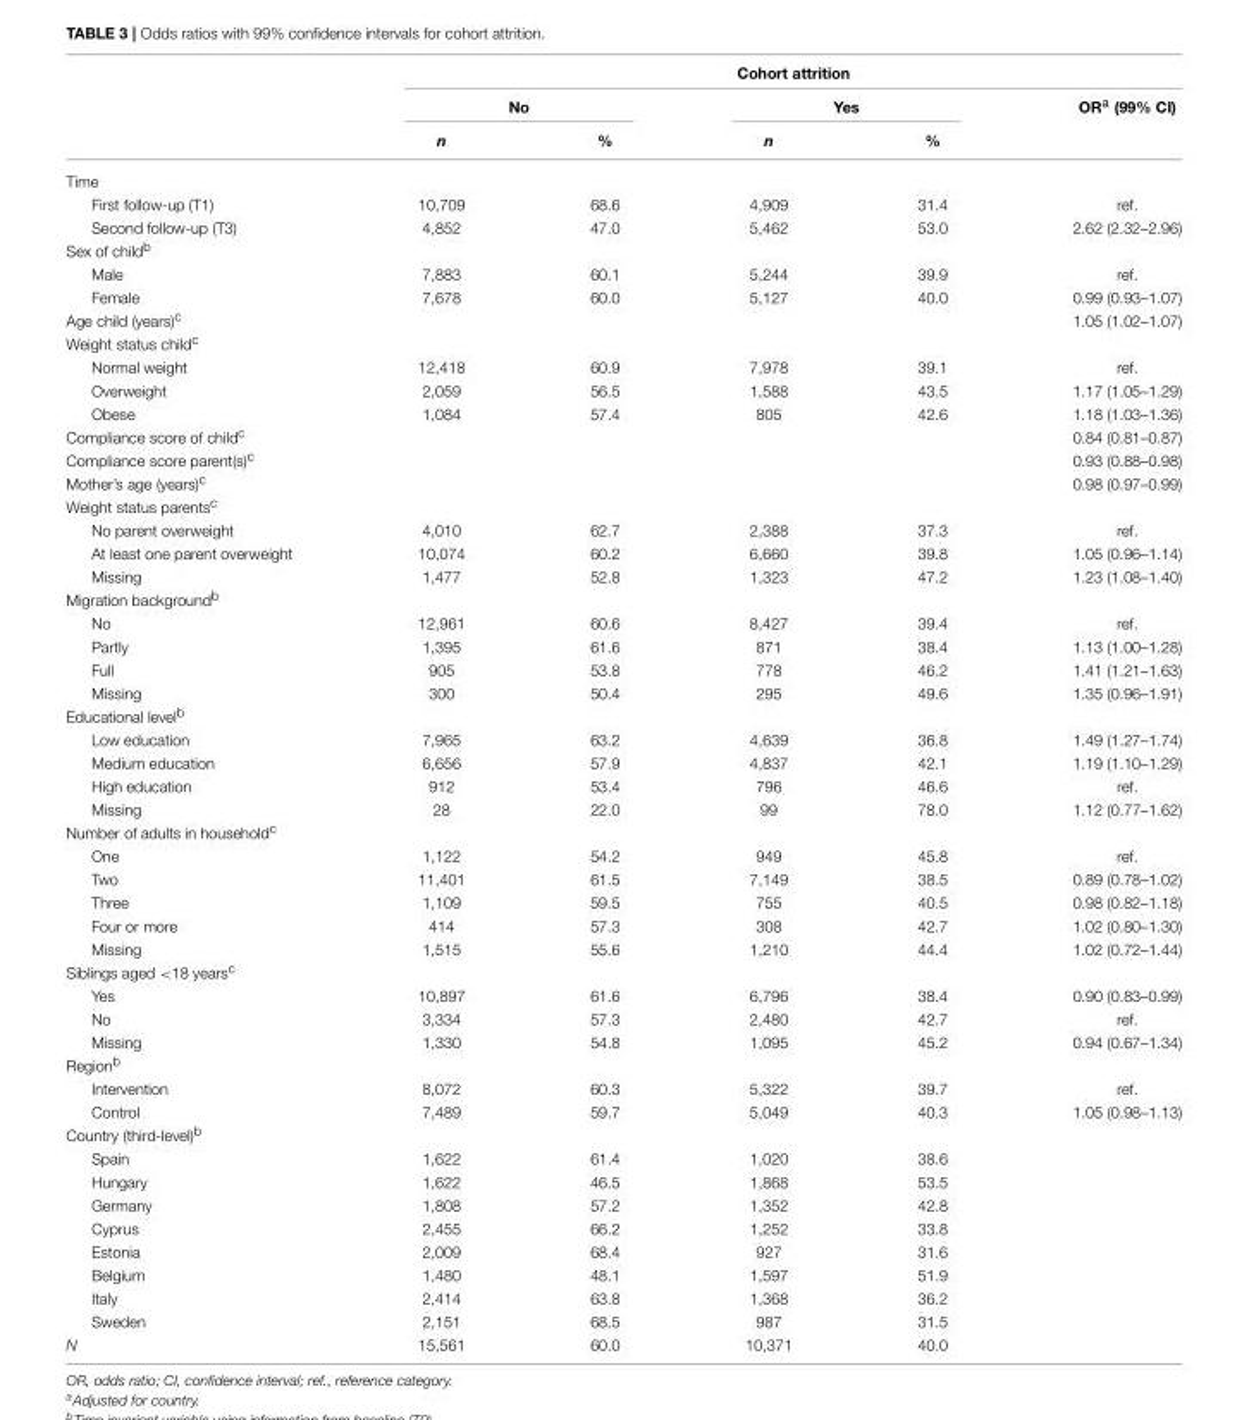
<table><thead><tr><td rowspan="3"></td><td colspan="5">Cohort attrition</td></tr><tr><td colspan="2">No</td><td colspan="2">Yes</td><td rowspan="2">OR<sup>a</sup> (99% CI)</td></tr><tr><td>n</td><td>%</td><td>n</td><td>%</td></tr></thead><tbody><tr><td colspan="6">Time</td></tr><tr><td>First follow-up (T1)</td><td>10,709</td><td>68.6</td><td>4,909</td><td>31.4</td><td>ref.</td></tr><tr><td>Second follow-up (T3)</td><td>4,852</td><td>47.0</td><td>5,462</td><td>53.0</td><td>2.62 (2.32–2.96)</td></tr><tr><td colspan="6">Sex of child<sup>b</sup></td></tr><tr><td>Male</td><td>7,883</td><td>60.1</td><td>5,244</td><td>39.9</td><td>ref.</td></tr><tr><td>Female</td><td>7,678</td><td>60.0</td><td>5,127</td><td>40.0</td><td>0.99 (0.93–1.07)</td></tr><tr><td>Age child (years)<sup>c</sup></td><td></td><td></td><td></td><td></td><td>1.05 (1.02–1.07)</td></tr><tr><td colspan="6">Weight status child<sup>c</sup></td></tr><tr><td>Normal weight</td><td>12,418</td><td>60.9</td><td>7,978</td><td>39.1</td><td>ref.</td></tr><tr><td>Overweight</td><td>2,059</td><td>56.5</td><td>1,588</td><td>43.5</td><td>1.17 (1.05–1.29)</td></tr><tr><td>Obese</td><td>1,084</td><td>57.4</td><td>805</td><td>42.6</td><td>1.18 (1.03–1.36)</td></tr><tr><td>Compliance score of child<sup>c</sup></td><td></td><td></td><td></td><td></td><td>0.84 (0.81–0.87)</td></tr><tr><td>Compliance score parent(s)<sup>c</sup></td><td></td><td></td><td></td><td></td><td>0.93 (0.88–0.98)</td></tr><tr><td>Mother’s age (years)<sup>c</sup></td><td></td><td></td><td></td><td></td><td>0.98 (0.97–0.99)</td></tr><tr><td colspan="6">Weight status parents<sup>c</sup></td></tr><tr><td>No parent overweight</td><td>4,010</td><td>62.7</td><td>2,388</td><td>37.3</td><td>ref.</td></tr><tr><td>At least one parent overweight</td><td>10,074</td><td>60.2</td><td>6,660</td><td>39.8</td><td>1.05 (0.96–1.14)</td></tr><tr><td>Missing</td><td>1,477</td><td>52.8</td><td>1,323</td><td>47.2</td><td>1.23 (1.08–1.40)</td></tr><tr><td colspan="6">Migration background<sup>b</sup></td></tr><tr><td>No</td><td>12,961</td><td>60.6</td><td>8,427</td><td>39.4</td><td>ref.</td></tr><tr><td>Partly</td><td>1,395</td><td>61.6</td><td>871</td><td>38.4</td><td>1.13 (1.00–1.28)</td></tr><tr><td>Full</td><td>905</td><td>53.8</td><td>778</td><td>46.2</td><td>1.41 (1.21–1.63)</td></tr><tr><td>Missing</td><td>300</td><td>50.4</td><td>295</td><td>49.6</td><td>1.35 (0.96–1.91)</td></tr><tr><td colspan="6">Educational level<sup>b</sup></td></tr><tr><td>Low education</td><td>7,965</td><td>63.2</td><td>4,639</td><td>36.8</td><td>1.49 (1.27–1.74)</td></tr><tr><td>Medium education</td><td>6,656</td><td>57.9</td><td>4,837</td><td>42.1</td><td>1.19 (1.10–1.29)</td></tr><tr><td>High education</td><td>912</td><td>53.4</td><td>796</td><td>46.6</td><td>ref.</td></tr><tr><td>Missing</td><td>28</td><td>22.0</td><td>99</td><td>78.0</td><td>1.12 (0.77–1.62)</td></tr><tr><td colspan="6">Number of adults in household<sup>c</sup></td></tr><tr><td>One</td><td>1,122</td><td>54.2</td><td>949</td><td>45.8</td><td>ref.</td></tr><tr><td>Two</td><td>11,401</td><td>61.5</td><td>7,149</td><td>38.5</td><td>0.89 (0.78–1.02)</td></tr><tr><td>Three</td><td>1,109</td><td>59.5</td><td>755</td><td>40.5</td><td>0.98 (0.82–1.18)</td></tr><tr><td>Four or more</td><td>414</td><td>57.3</td><td>308</td><td>42.7</td><td>1.02 (0.80–1.30)</td></tr><tr><td>Missing</td><td>1,515</td><td>55.6</td><td>1,210</td><td>44.4</td><td>1.02 (0.72–1.44)</td></tr><tr><td colspan="6">Siblings aged &lt;18 years<sup>c</sup></td></tr><tr><td>Yes</td><td>10,897</td><td>61.6</td><td>6,796</td><td>38.4</td><td>0.90 (0.83–0.99)</td></tr><tr><td>No</td><td>3,334</td><td>57.3</td><td>2,480</td><td>42.7</td><td>ref.</td></tr><tr><td>Missing</td><td>1,330</td><td>54.8</td><td>1,095</td><td>45.2</td><td>0.94 (0.67–1.34)</td></tr><tr><td colspan="6">Region<sup>b</sup></td></tr><tr><td>Intervention</td><td>8,072</td><td>60.3</td><td>5,322</td><td>39.7</td><td>ref.</td></tr><tr><td>Control</td><td>7,489</td><td>59.7</td><td>5,049</td><td>40.3</td><td>1.05 (0.98–1.13)</td></tr><tr><td colspan="6">Country (third-level)<sup>b</sup></td></tr><tr><td>Spain</td><td>1,622</td><td>61.4</td><td>1,020</td><td>38.6</td><td></td></tr><tr><td>Hungary</td><td>1,622</td><td>46.5</td><td>1,868</td><td>53.5</td><td></td></tr><tr><td>Germany</td><td>1,808</td><td>57.2</td><td>1,352</td><td>42.8</td><td></td></tr><tr><td>Cyprus</td><td>2,455</td><td>66.2</td><td>1,252</td><td>33.8</td><td></td></tr><tr><td>Estonia</td><td>2,009</td><td>68.4</td><td>927</td><td>31.6</td><td></td></tr><tr><td>Belgium</td><td>1,480</td><td>48.1</td><td>1,597</td><td>51.9</td><td></td></tr><tr><td>Italy</td><td>2,414</td><td>63.8</td><td>1,368</td><td>36.2</td><td></td></tr><tr><td>Sweden</td><td>2,151</td><td>68.5</td><td>987</td><td>31.5</td><td></td></tr><tr><td>N</td><td>15,561</td><td>60.0</td><td>10,371</td><td>40.0</td><td></td></tr></tbody></table>